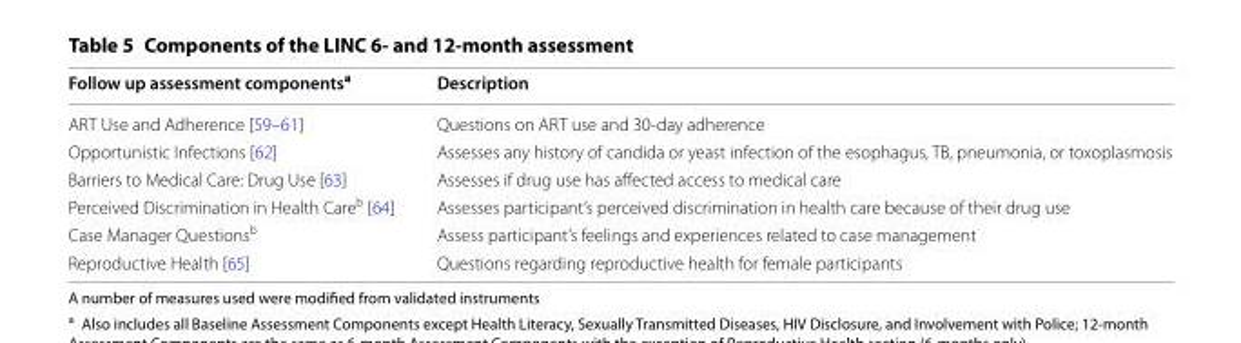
<table><thead><tr><td>Follow up assessment components<sup>a</sup></td><td>Description</td></tr></thead><tbody><tr><td>ART Use and Adherence [59–61]</td><td>Questions on ART use and 30-day adherence</td></tr><tr><td>Opportunistic Infections [62]</td><td>Assesses any history of candida or yeast infection of the esophagus, TB, pneumonia, or toxoplasmosis</td></tr><tr><td>Barriers to Medical Care: Drug Use [63]</td><td>Assesses if drug use has affected access to medical care</td></tr><tr><td>Perceived Discrimination in Health Care<sup>b</sup> [64]</td><td>Assesses participant’s perceived discrimination in health care because of their drug use</td></tr><tr><td>Case Manager Questions<sup>b</sup></td><td>Assess participant’s feelings and experiences related to case management</td></tr><tr><td>Reproductive Health [65]</td><td>Questions regarding reproductive health for female participants</td></tr></tbody></table>